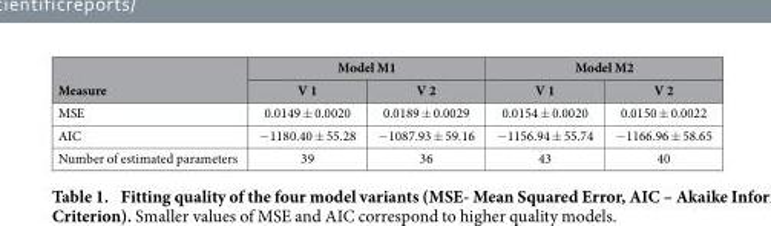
<table><thead><tr><td rowspan="2">Measure</td><td colspan="2">Model M1</td><td colspan="2">Model M2</td></tr><tr><td>V 1</td><td>V 2</td><td>V 1</td><td>V 2</td></tr></thead><tbody><tr><td>MSE</td><td>0.0149 ± 0.0020</td><td>0.0189 ± 0.0029</td><td>0.0154 ± 0.0020</td><td>0.0150 ± 0.0022</td></tr><tr><td>AIC</td><td>− 1180.40 ± 55.28</td><td>− 1087.93 ± 59.16</td><td>− 1156.94 ± 55.74</td><td>− 1166.96 ± 58.65</td></tr><tr><td>Number of estimated parameters</td><td>39</td><td>36</td><td>43</td><td>40</td></tr></tbody></table>